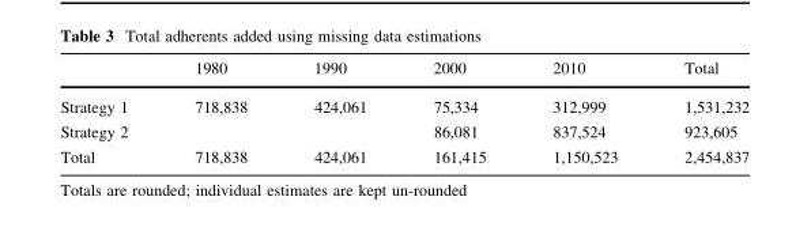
<table><thead><tr><td></td><td>1980</td><td>1990</td><td>2000</td><td>2010</td><td>Total</td></tr></thead><tbody><tr><td>Strategy 1</td><td>718,838</td><td>424,061</td><td>75,334</td><td>312,999</td><td>1,531,232</td></tr><tr><td>Strategy 2</td><td></td><td></td><td>86,081</td><td>837,524</td><td>923,605</td></tr><tr><td>Total</td><td>718,838</td><td>424,061</td><td>161,415</td><td>1,150,523</td><td>2,454,837</td></tr></tbody></table>